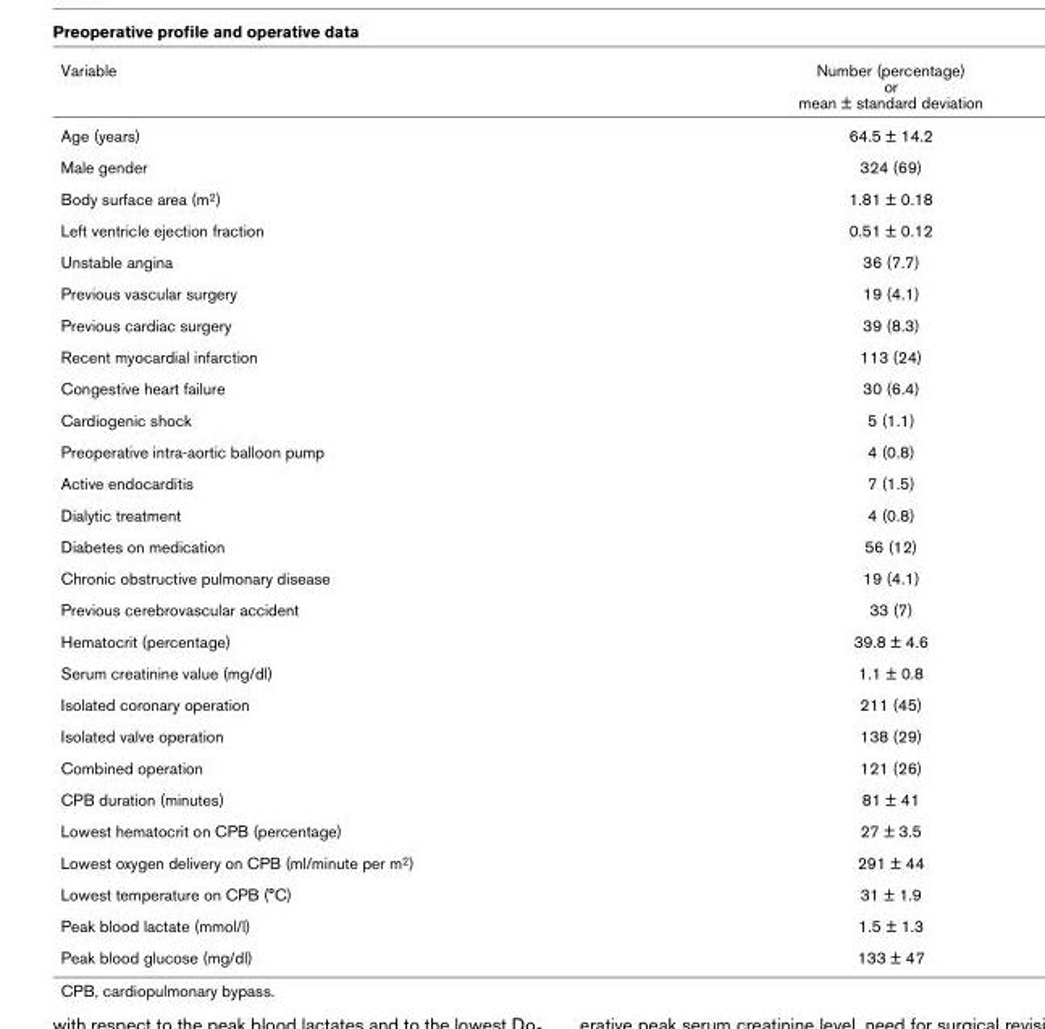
<table><thead><tr><td>Variable</td><td>Number (percentage) or mean ± standard deviation</td></tr></thead><tbody><tr><td>Age (years)</td><td>64.5 ± 14.2</td></tr><tr><td>Male gender</td><td>324 (69)</td></tr><tr><td>Body surface area (m2)</td><td>1.81 ± 0.18</td></tr><tr><td>Left ventricle ejection fraction</td><td>0.51 ± 0.12</td></tr><tr><td>Unstable angina</td><td>36 (7.7)</td></tr><tr><td>Previous vascular surgery</td><td>19 (4.1)</td></tr><tr><td>Previous cardiac surgery</td><td>39 (8.3)</td></tr><tr><td>Recent myocardial infarction</td><td>113 (24)</td></tr><tr><td>Congestive heart failure</td><td>30 (6.4)</td></tr><tr><td>Cardiogenic shock</td><td>5 (1.1)</td></tr><tr><td>Preoperative intra-aortic balloon pump</td><td>4 (0.8)</td></tr><tr><td>Active endocarditis</td><td>7 (1.5)</td></tr><tr><td>Dialytic treatment</td><td>4 (0.8)</td></tr><tr><td>Diabetes on medication</td><td>56 (12)</td></tr><tr><td>Chronic obstructive pulmonary disease</td><td>19 (4.1)</td></tr><tr><td>Previous cerebrovascular accident</td><td>33 (7)</td></tr><tr><td>Hematocrit (percentage)</td><td>39.8 ± 4.6</td></tr><tr><td>Serum creatinine value (mg/dl)</td><td>1.1 ± 0.8</td></tr><tr><td>Isolated coronary operation</td><td>211 (45)</td></tr><tr><td>Isolated valve operation</td><td>138 (29)</td></tr><tr><td>Combined operation</td><td>121 (26)</td></tr><tr><td>CPB duration (minutes)</td><td>81 ± 41</td></tr><tr><td>Lowest hematocrit on CPB (percentage)</td><td>27 ± 3.5</td></tr><tr><td>Lowest oxygen delivery on CPB (ml/minute per m2)</td><td>291 ± 44</td></tr><tr><td>Lowest temperature on CPB (°C)</td><td>31 ± 1.9</td></tr><tr><td>Peak blood lactate (mmol/l)</td><td>1.5 ± 1.3</td></tr><tr><td>Peak blood glucose (mg/dl)</td><td>133 ± 47</td></tr></tbody></table>